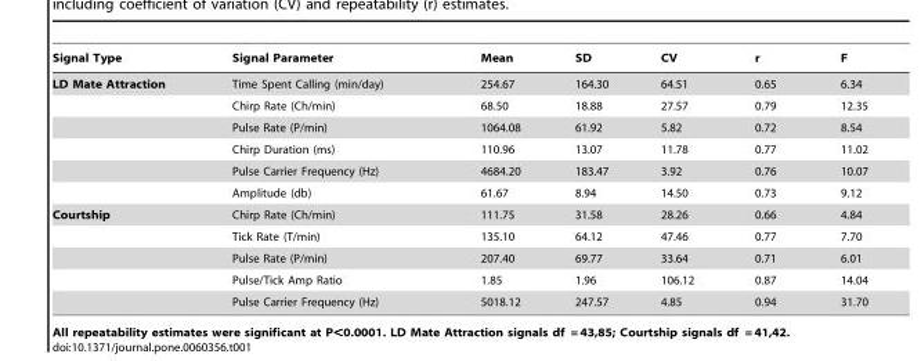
<table><thead><tr><td>Signal Type</td><td>Signal Parameter</td><td>Mean</td><td>SD</td><td>CV</td><td>r</td><td>F</td></tr></thead><tbody><tr><td rowspan="6">LD Mate Attraction</td><td>Time Spent Calling (min/day)</td><td>254.67</td><td>164.30</td><td>64.51</td><td>0.65</td><td>6.34</td></tr><tr><td>Chirp Rate (Ch/min)</td><td>68.50</td><td>18.88</td><td>27.57</td><td>0.79</td><td>12.35</td></tr><tr><td>Pulse Rate (P/min)</td><td>1064.08</td><td>61.92</td><td>5.82</td><td>0.72</td><td>8.54</td></tr><tr><td>Chirp Duration (ms)</td><td>110.96</td><td>13.07</td><td>11.78</td><td>0.77</td><td>11.02</td></tr><tr><td>Pulse Carrier Frequency (Hz)</td><td>4684.20</td><td>183.47</td><td>3.92</td><td>0.76</td><td>10.07</td></tr><tr><td>Amplitude (db)</td><td>61.67</td><td>8.94</td><td>14.50</td><td>0.73</td><td>9.12</td></tr><tr><td rowspan="5">Courtship</td><td>Chirp Rate (Ch/min)</td><td>111.75</td><td>31.58</td><td>28.26</td><td>0.66</td><td>4.84</td></tr><tr><td>Tick Rate (T/min)</td><td>135.10</td><td>64.12</td><td>47.46</td><td>0.77</td><td>7.70</td></tr><tr><td>Pulse Rate (P/min)</td><td>207.40</td><td>69.77</td><td>33.64</td><td>0.71</td><td>6.01</td></tr><tr><td>Pulse/Tick Amp Ratio</td><td>1.85</td><td>1.96</td><td>106.12</td><td>0.87</td><td>14.04</td></tr><tr><td>Pulse Carrier Frequency (Hz)</td><td>5018.12</td><td>247.57</td><td>4.85</td><td>0.94</td><td>31.70</td></tr></tbody></table>